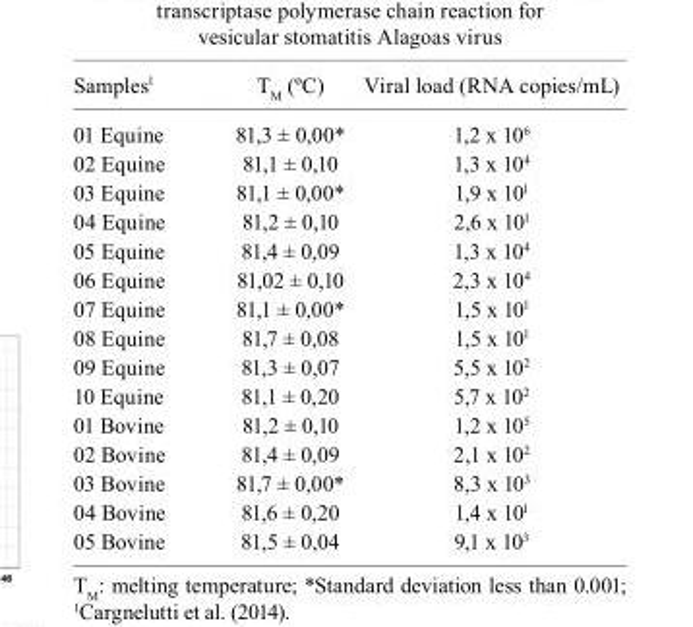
<table><thead><tr><td>Samples<sup>1</sup></td><td>T<sub>M</sub> (ºC)</td><td>Viral load (RNA copies/mL)</td></tr></thead><tbody><tr><td>01 Equine</td><td>81,3 ± 0,00*</td><td>1,2 x 10<sup>6</sup></td></tr><tr><td>02 Equine</td><td>81,1 ± 0,10</td><td>1,3 x 10<sup>4</sup></td></tr><tr><td>03 Equine</td><td>81,1 ± 0,00*</td><td>1,9 x 10<sup>1</sup></td></tr><tr><td>04 Equine</td><td>81,2 ± 0,10</td><td>2,6 x 10<sup>1</sup></td></tr><tr><td>05 Equine</td><td>81,4 ± 0,09</td><td>1,3 x 10<sup>4</sup></td></tr><tr><td>06 Equine</td><td>81,02 ± 0,10</td><td>2,3 x 10<sup>4</sup></td></tr><tr><td>07 Equine</td><td>81,1 ± 0,00*</td><td>1,5 x 10<sup>1</sup></td></tr><tr><td>08 Equine</td><td>81,7 ± 0,08</td><td>1,5 x 10<sup>1</sup></td></tr><tr><td>09 Equine</td><td>81,3 ± 0,07</td><td>5,5 x 10<sup>2</sup></td></tr><tr><td>10 Equine</td><td>81,1 ± 0,20</td><td>5,7 x 10<sup>2</sup></td></tr><tr><td>01 Bovine</td><td>81,2 ± 0,10</td><td>1,2 x 10<sup>5</sup></td></tr><tr><td>02 Bovine</td><td>81,4 ± 0,09</td><td>2,1 x 10<sup>2</sup></td></tr><tr><td>03 Bovine</td><td>81,7 ± 0,00*</td><td>8,3 x 10<sup>3</sup></td></tr><tr><td>04 Bovine</td><td>81,6 ± 0,20</td><td>1,4 x 10<sup>1</sup></td></tr><tr><td>05 Bovine</td><td>81,5 ± 0,04</td><td>9,1 x 10<sup>3</sup></td></tr></tbody></table>